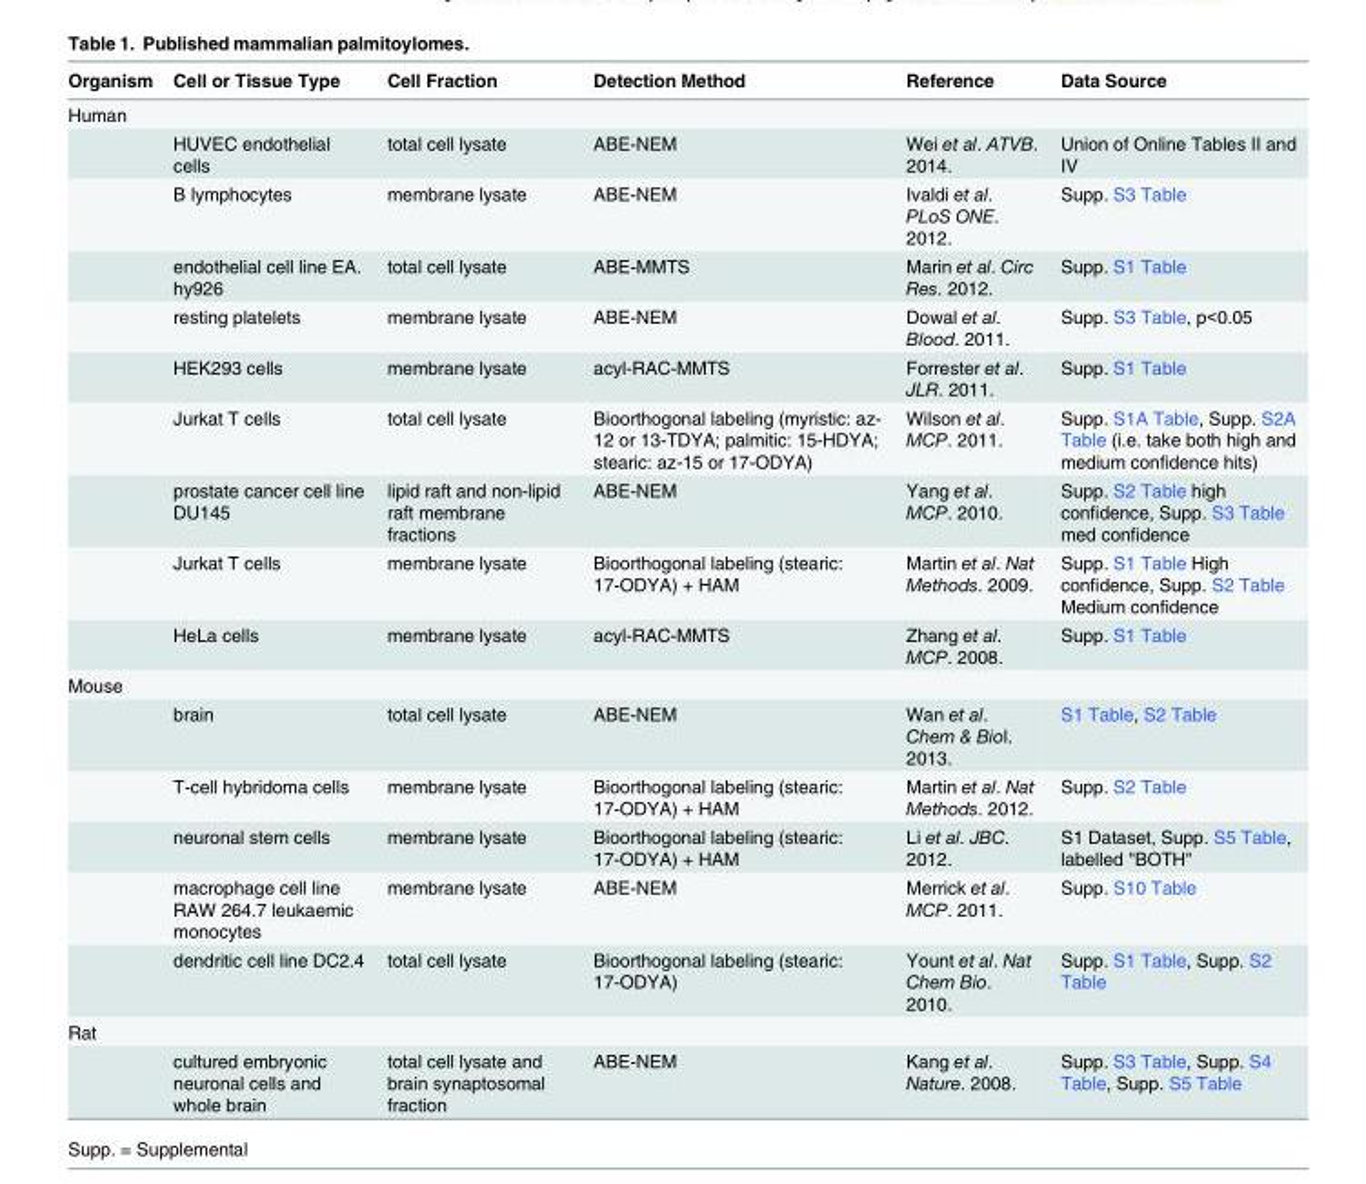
<table><thead><tr><td>Organism</td><td>Cell or Tissue Type</td><td>Cell Fraction</td><td>Detection Method</td><td>Reference</td><td>Data Source</td></tr></thead><tbody><tr><td colspan="6">Human</td></tr><tr><td></td><td>HUVEC endothelial cells</td><td>total cell lysate</td><td>ABE-NEM</td><td>Wei et al. ATVB. 2014.</td><td>Union of Online Tables II and IV</td></tr><tr><td></td><td>B lymphocytes</td><td>membrane lysate</td><td>ABE-NEM</td><td>Ivaldi et al. PLoS ONE. 2012.</td><td>Supp. S3 Table</td></tr><tr><td></td><td>endothelial cell line EA. hy926</td><td>total cell lysate</td><td>ABE-MMTS</td><td>Marin et al. Circ Res. 2012.</td><td>Supp. S1 Table</td></tr><tr><td></td><td>resting platelets</td><td>membrane lysate</td><td>ABE-NEM</td><td>Dowal et al. Blood. 2011.</td><td>Supp. S3 Table, p&lt;0.05</td></tr><tr><td></td><td>HEK293 cells</td><td>membrane lysate</td><td>acyl-RAC-MMTS</td><td>Forrester et al. JLR. 2011.</td><td>Supp. S1 Table</td></tr><tr><td></td><td>Jurkat T cells</td><td>total cell lysate</td><td>Bioorthogonal labeling (myristic: az- 12 or 13-TDYA; palmitic: 15-HDYA; stearic: az-15 or 17-ODYA)</td><td>Wilson et al. MCP. 2011.</td><td>Supp. S1A Table, Supp. S2A Table (i.e. take both high and medium confidence hits)</td></tr><tr><td></td><td>prostate cancer cell line DU145</td><td>lipid raft and non-lipid raft membrane fractions</td><td>ABE-NEM</td><td>Yang et al. MCP. 2010.</td><td>Supp. S2 Table high confidence, Supp. S3 Table med confidence</td></tr><tr><td></td><td>Jurkat T cells</td><td>membrane lysate</td><td>Bioorthogonal labeling (stearic: 17-ODYA) + HAM</td><td>Martin et al. Nat Methods. 2009.</td><td>Supp. S1 Table High confidence, Supp. S2 Table Medium confidence</td></tr><tr><td></td><td>HeLa cells</td><td>membrane lysate</td><td>acyl-RAC-MMTS</td><td>Zhang et al. MCP. 2008.</td><td>Supp. S1 Table</td></tr><tr><td colspan="6">Mouse</td></tr><tr><td></td><td>brain</td><td>total cell lysate</td><td>ABE-NEM</td><td>Wan et al. Chem &amp; Biol. 2013.</td><td>S1 Table, S2 Table</td></tr><tr><td></td><td>T-cell hybridoma cells</td><td>membrane lysate</td><td>Bioorthogonal labeling (stearic: 17-ODYA) + HAM</td><td>Martin et al. Nat Methods. 2012.</td><td>Supp. S2 Table</td></tr><tr><td></td><td>neuronal stem cells</td><td>membrane lysate</td><td>Bioorthogonal labeling (stearic: 17-ODYA) + HAM</td><td>Li et al. JBC. 2012.</td><td>S1 Dataset, Supp. S5 Table, labelled &quot;BOTH&quot;</td></tr><tr><td></td><td>macrophage cell line RAW 264.7 leukaemic monocytes</td><td>membrane lysate</td><td>ABE-NEM</td><td>Merrick et al. MCP. 2011.</td><td>Supp. S10 Table</td></tr><tr><td></td><td>dendritic cell line DC2.4</td><td>total cell lysate</td><td>Bioorthogonal labeling (stearic: 17-ODYA)</td><td>Yount et al. Nat Chem Bio. 2010.</td><td>Supp. S1 Table, Supp. S2 Table</td></tr><tr><td colspan="6">Rat</td></tr><tr><td></td><td>cultured embryonic neuronal cells and whole brain</td><td>total cell lysate and brain synaptosomal fraction</td><td>ABE-NEM</td><td>Kang et al. Nature. 2008.</td><td>Supp. S3 Table, Supp. S4 Table, Supp. S5 Table</td></tr></tbody></table>